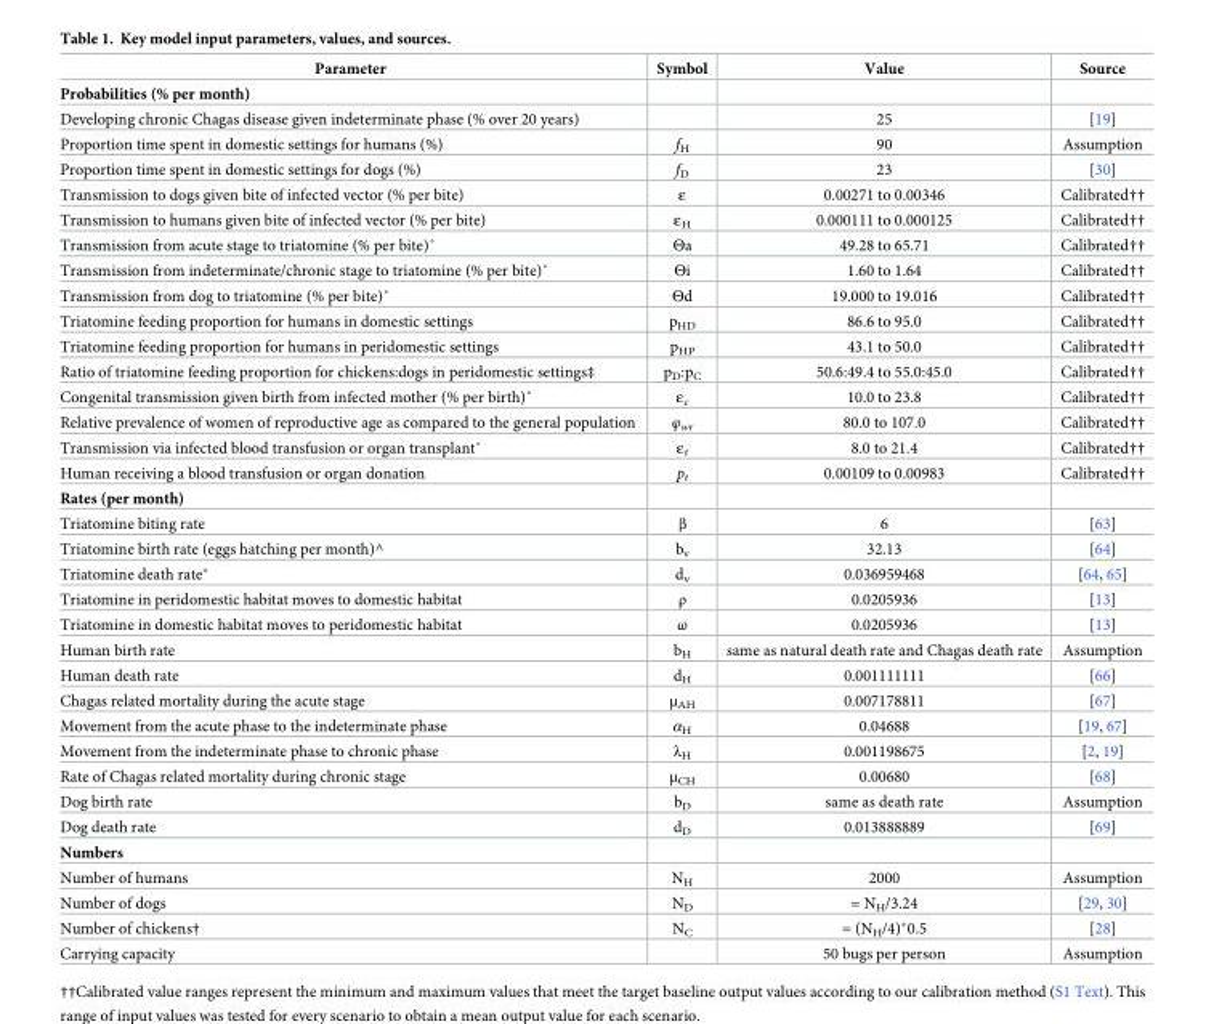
<table><thead><tr><td>Parameter</td><td>Symbol</td><td>Value</td><td>Source</td></tr></thead><tbody><tr><td colspan="4">Probabilities (% per month)</td></tr><tr><td>Developing chronic Chagas disease given indeterminate phase (% over 20 years)</td><td></td><td>25</td><td>[19]</td></tr><tr><td>Proportion time spent in domestic settings for humans (%)</td><td>f<sub>H</sub></td><td>90</td><td>Assumption</td></tr><tr><td>Proportion time spent in domestic settings for dogs (%)</td><td>f<sub>D</sub></td><td>23</td><td>[30]</td></tr><tr><td>Transmission to dogs given bite of infected vector (% per bite)</td><td>ε</td><td>0.00271 to 0.00346</td><td>Calibrated††</td></tr><tr><td>Transmission to humans given bite of infected vector (% per bite)</td><td>ε<sub>H</sub></td><td>0.000111 to 0.000125</td><td>Calibrated††</td></tr><tr><td>Transmission from acute stage to triatomine (% per bite)˚</td><td>Θa</td><td>49.28 to 65.71</td><td>Calibrated††</td></tr><tr><td>Transmission from indeterminate/chronic stage to triatomine (% per bite)˚</td><td>Θi</td><td>1.60 to 1.64</td><td>Calibrated††</td></tr><tr><td>Transmission from dog to triatomine (% per bite)˚</td><td>Θd</td><td>19.000 to 19.016</td><td>Calibrated††</td></tr><tr><td>Triatomine feeding proportion for humans in domestic settings</td><td>p<sub>HD</sub></td><td>86.6 to 95.0</td><td>Calibrated††</td></tr><tr><td>Triatomine feeding proportion for humans in peridomestic settings</td><td>p<sub>HP</sub></td><td>43.1 to 50.0</td><td>Calibrated††</td></tr><tr><td>Ratio of triatomine feeding proportion for chickens:dogs in peridomestic settings‡</td><td>p<sub>D</sub>:p<sub>C</sub></td><td>50.6:49.4 to 55.0:45.0</td><td>Calibrated††</td></tr><tr><td>Congenital transmission given birth from infected mother (% per birth)˚</td><td>ε<sub>c</sub></td><td>10.0 to 23.8</td><td>Calibrated††</td></tr><tr><td>Relative prevalence of women of reproductive age as compared to the general population</td><td>φ<sub>wr</sub></td><td>80.0 to 107.0</td><td>Calibrated††</td></tr><tr><td>Transmission via infected blood transfusion or organ transplant˚</td><td>ε<sub>t</sub></td><td>8.0 to 21.4</td><td>Calibrated††</td></tr><tr><td>Human receiving a blood transfusion or organ donation</td><td>p<sub>t</sub></td><td>0.00109 to 0.00983</td><td>Calibrated††</td></tr><tr><td colspan="4">Rates (per month)</td></tr><tr><td>Triatomine biting rate</td><td>β</td><td>6</td><td>[63]</td></tr><tr><td>Triatomine birth rate (eggs hatching per month)^</td><td>b<sub>v</sub></td><td>32.13</td><td>[64]</td></tr><tr><td>Triatomine death rate*</td><td>d<sub>v</sub></td><td>0.036959468</td><td>[64, 65]</td></tr><tr><td>Triatomine in peridomestic habitat moves to domestic habitat</td><td>ρ</td><td>0.0205936</td><td>[13]</td></tr><tr><td>Triatomine in domestic habitat moves to peridomestic habitat</td><td>ω</td><td>0.0205936</td><td>[13]</td></tr><tr><td>Human birth rate</td><td>b<sub>H</sub></td><td>same as natural death rate and Chagas death rate</td><td>Assumption</td></tr><tr><td>Human death rate</td><td>d<sub>H</sub></td><td>0.001111111</td><td>[66]</td></tr><tr><td>Chagas related mortality during the acute stage</td><td>μ<sub>AH</sub></td><td>0.007178811</td><td>[67]</td></tr><tr><td>Movement from the acute phase to the indeterminate phase</td><td>α<sub>H</sub></td><td>0.04688</td><td>[19, 67]</td></tr><tr><td>Movement from the indeterminate phase to chronic phase</td><td>λ<sub>H</sub></td><td>0.001198675</td><td>[2, 19]</td></tr><tr><td>Rate of Chagas related mortality during chronic stage</td><td>μ<sub>CH</sub></td><td>0.00680</td><td>[68]</td></tr><tr><td>Dog birth rate</td><td>b<sub>D</sub></td><td>same as death rate</td><td>Assumption</td></tr><tr><td>Dog death rate</td><td>d<sub>D</sub></td><td>0.013888889</td><td>[69]</td></tr><tr><td colspan="4">Numbers</td></tr><tr><td>Number of humans</td><td>N<sub>H</sub></td><td>2000</td><td>Assumption</td></tr><tr><td>Number of dogs</td><td>N<sub>D</sub></td><td>= N<sub>H</sub>/3.24</td><td>[29, 30]</td></tr><tr><td>Number of chickens†</td><td>N<sub>C</sub></td><td>= (N<sub>H</sub>/4)*0.5</td><td>[28]</td></tr><tr><td>Carrying capacity</td><td></td><td>50 bugs per person</td><td>Assumption</td></tr></tbody></table>